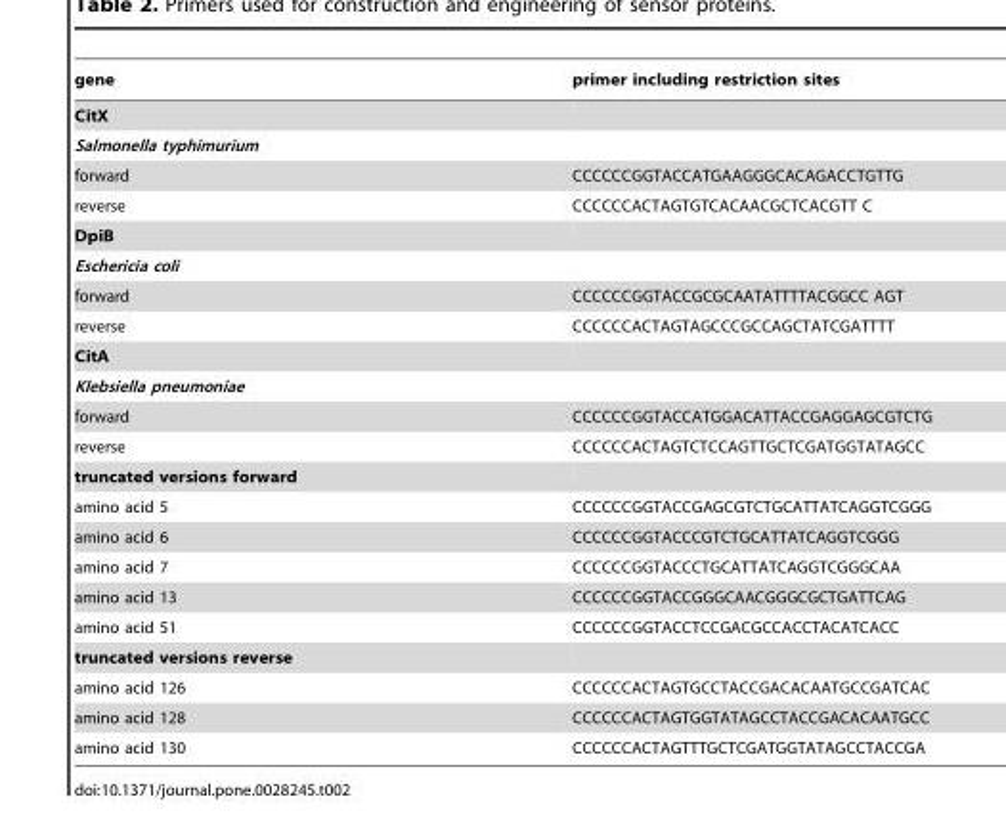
<table><thead><tr><td>gene</td><td>primer including restriction sites</td></tr></thead><tbody><tr><td colspan="2">CitX</td></tr><tr><td colspan="2">Salmonella typhimurium</td></tr><tr><td>forward</td><td>CCCCCCGGTACCATGAAGGGCACAGACCTGTTG</td></tr><tr><td>reverse</td><td>CCCCCCACTAGTGTCACAACGCTCACGTT C</td></tr><tr><td colspan="2">DpiB</td></tr><tr><td colspan="2">Eschericia coli</td></tr><tr><td>forward</td><td>CCCCCCGGTACCGCGCAATATTTTACGGCC AGT</td></tr><tr><td>reverse</td><td>CCCCCCACTAGTAGCCCGCCAGCTATCGATTTT</td></tr><tr><td colspan="2">CitA</td></tr><tr><td colspan="2">Klebsiella pneumoniae</td></tr><tr><td>forward</td><td>CCCCCCGGTACCATGGACATTACCGAGGAGCGTCTG</td></tr><tr><td>reverse</td><td>CCCCCCACTAGTCTCCAGTTGCTCGATGGTATAGCC</td></tr><tr><td colspan="2">truncated versions forward</td></tr><tr><td>amino acid 5</td><td>CCCCCCGGTACCGAGCGTCTGCATTATCAGGTCGGG</td></tr><tr><td>amino acid 6</td><td>CCCCCCGGTACCCGTCTGCATTATCAGGTCGGG</td></tr><tr><td>amino acid 7</td><td>CCCCCCGGTACCCTGCATTATCAGGTCGGGCAA</td></tr><tr><td>amino acid 13</td><td>CCCCCCGGTACCGGGCAACGGGCGCTGATTCAG</td></tr><tr><td>amino acid 51</td><td>CCCCCCGGTACCTCCGACGCCACCTACATCACC</td></tr><tr><td colspan="2">truncated versions reverse</td></tr><tr><td>amino acid 126</td><td>CCCCCCACTAGTGCCTACCGACACAATGCCGATCAC</td></tr><tr><td>amino acid 128</td><td>CCCCCCACTAGTGGTATAGCCTACCGACACAATGCC</td></tr><tr><td>amino acid 130</td><td>CCCCCCACTAGTTTGCTCGATGGTATAGCCTACCGA</td></tr></tbody></table>